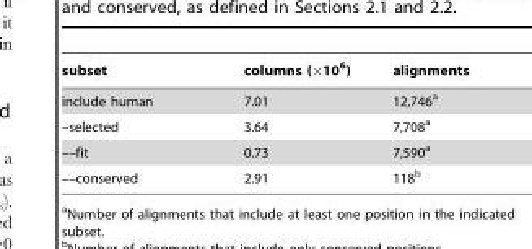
<table><thead><tr><td>subset</td><td>columns (×10<sup>6</sup>)</td><td>alignments</td></tr></thead><tbody><tr><td>include human</td><td>7.01</td><td>12,746<sup>a</sup></td></tr><tr><td>–selected</td><td>3.64</td><td>7,708<sup>a</sup></td></tr><tr><td>––fit</td><td>0.73</td><td>7,590<sup>a</sup></td></tr><tr><td>––conserved</td><td>2.91</td><td>118<sup>b</sup></td></tr></tbody></table>